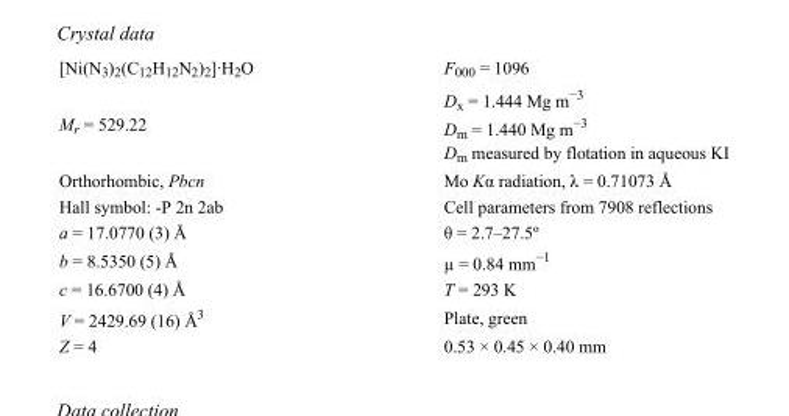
<table><tbody><tr><td>[Ni(N<sub>3</sub>)<sub>2</sub>(C<sub>12</sub>H<sub>12</sub>N<sub>2</sub>)<sub>2</sub>]·H<sub>2</sub>O</td><td>F000 = 1096</td></tr><tr><td>M<sub>r</sub> = 529.22</td><td>D<sub>x</sub> = 1.444 Mg m<sup>−3</sup> D<sub>m</sub> = 1.440 Mg m<sup>−3</sup> D<sub>m</sub> measured by flotation in aqueous KI</td></tr><tr><td>Orthorhombic, Pbcn</td><td>Mo Kα radiation, λ = 0.71073 Å</td></tr><tr><td>Hall symbol: -P 2n 2ab</td><td>Cell parameters from 7908 reflections</td></tr><tr><td>a = 17.0770 (3) Å</td><td>θ = 2.7–27.5º</td></tr><tr><td>b = 8.5350 (5) Å</td><td>µ = 0.84 mm<sup>−1</sup></td></tr><tr><td>c = 16.6700 (4) Å</td><td>T = 293 K</td></tr><tr><td>V = 2429.69 (16) Å<sup>3</sup></td><td>Plate, green</td></tr><tr><td>Z = 4</td><td>0.53 × 0.45 × 0.40 mm</td></tr></tbody></table>